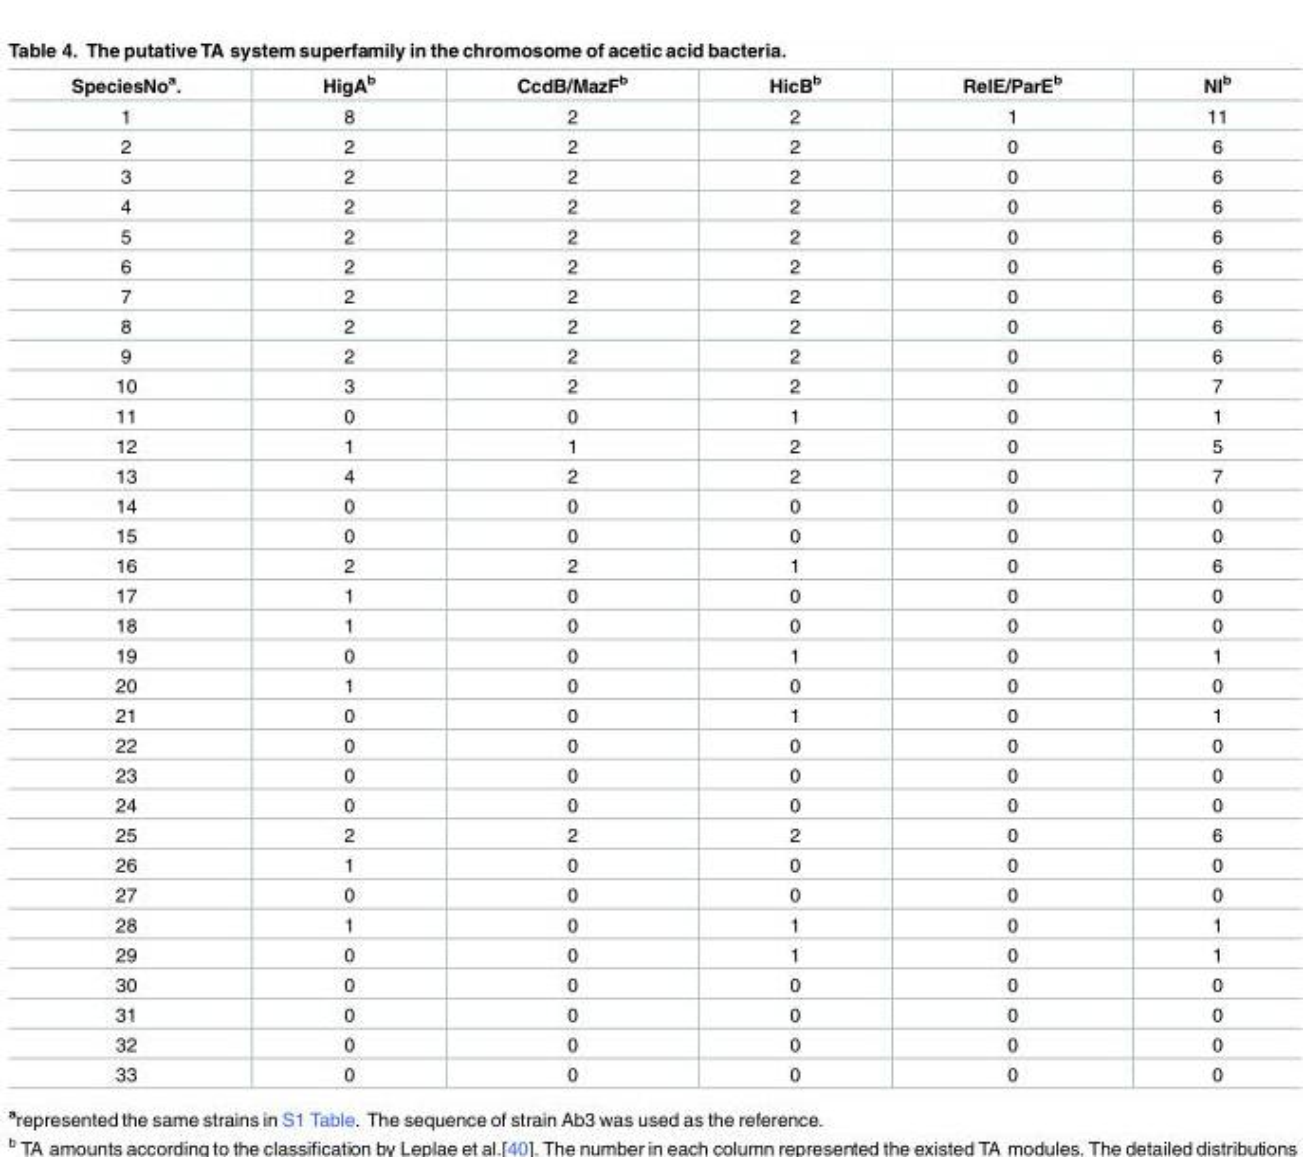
<table><thead><tr><td>SpeciesNo<sup>a</sup>.</td><td>HigA<sup>b</sup></td><td>CcdB/MazF<sup>b</sup></td><td>HicB<sup>b</sup></td><td>RelE/ParE<sup>b</sup></td><td>NI<sup>b</sup></td></tr></thead><tbody><tr><td>1</td><td>8</td><td>2</td><td>2</td><td>1</td><td>11</td></tr><tr><td>2</td><td>2</td><td>2</td><td>2</td><td>0</td><td>6</td></tr><tr><td>3</td><td>2</td><td>2</td><td>2</td><td>0</td><td>6</td></tr><tr><td>4</td><td>2</td><td>2</td><td>2</td><td>0</td><td>6</td></tr><tr><td>5</td><td>2</td><td>2</td><td>2</td><td>0</td><td>6</td></tr><tr><td>6</td><td>2</td><td>2</td><td>2</td><td>0</td><td>6</td></tr><tr><td>7</td><td>2</td><td>2</td><td>2</td><td>0</td><td>6</td></tr><tr><td>8</td><td>2</td><td>2</td><td>2</td><td>0</td><td>6</td></tr><tr><td>9</td><td>2</td><td>2</td><td>2</td><td>0</td><td>6</td></tr><tr><td>10</td><td>3</td><td>2</td><td>2</td><td>0</td><td>7</td></tr><tr><td>11</td><td>0</td><td>0</td><td>1</td><td>0</td><td>1</td></tr><tr><td>12</td><td>1</td><td>1</td><td>2</td><td>0</td><td>5</td></tr><tr><td>13</td><td>4</td><td>2</td><td>2</td><td>0</td><td>7</td></tr><tr><td>14</td><td>0</td><td>0</td><td>0</td><td>0</td><td>0</td></tr><tr><td>15</td><td>0</td><td>0</td><td>0</td><td>0</td><td>0</td></tr><tr><td>16</td><td>2</td><td>2</td><td>1</td><td>0</td><td>6</td></tr><tr><td>17</td><td>1</td><td>0</td><td>0</td><td>0</td><td>0</td></tr><tr><td>18</td><td>1</td><td>0</td><td>0</td><td>0</td><td>0</td></tr><tr><td>19</td><td>0</td><td>0</td><td>1</td><td>0</td><td>1</td></tr><tr><td>20</td><td>1</td><td>0</td><td>0</td><td>0</td><td>0</td></tr><tr><td>21</td><td>0</td><td>0</td><td>1</td><td>0</td><td>1</td></tr><tr><td>22</td><td>0</td><td>0</td><td>0</td><td>0</td><td>0</td></tr><tr><td>23</td><td>0</td><td>0</td><td>0</td><td>0</td><td>0</td></tr><tr><td>24</td><td>0</td><td>0</td><td>0</td><td>0</td><td>0</td></tr><tr><td>25</td><td>2</td><td>2</td><td>2</td><td>0</td><td>6</td></tr><tr><td>26</td><td>1</td><td>0</td><td>0</td><td>0</td><td>0</td></tr><tr><td>27</td><td>0</td><td>0</td><td>0</td><td>0</td><td>0</td></tr><tr><td>28</td><td>1</td><td>0</td><td>1</td><td>0</td><td>1</td></tr><tr><td>29</td><td>0</td><td>0</td><td>1</td><td>0</td><td>1</td></tr><tr><td>30</td><td>0</td><td>0</td><td>0</td><td>0</td><td>0</td></tr><tr><td>31</td><td>0</td><td>0</td><td>0</td><td>0</td><td>0</td></tr><tr><td>32</td><td>0</td><td>0</td><td>0</td><td>0</td><td>0</td></tr><tr><td>33</td><td>0</td><td>0</td><td>0</td><td>0</td><td>0</td></tr></tbody></table>